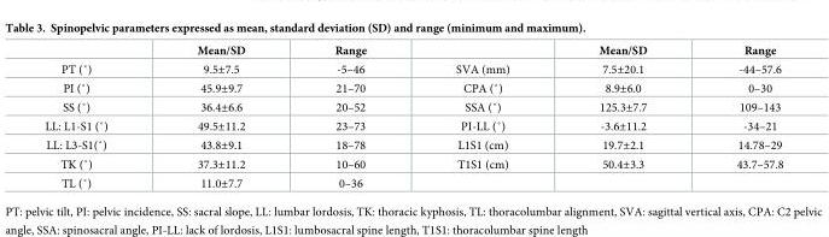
<table><thead><tr><td></td><td>Mean/SD</td><td>Range</td><td></td><td>Mean/SD</td><td>Range</td></tr></thead><tbody><tr><td>PT (˚)</td><td>9.5±7.5</td><td>-5–46</td><td>SVA (mm)</td><td>7.5±20.1</td><td>-44–57.6</td></tr><tr><td>PI (˚)</td><td>45.9±9.7</td><td>21–70</td><td>CPA (˚)</td><td>8.9±6.0</td><td>0–30</td></tr><tr><td>SS (˚)</td><td>36.4±6.6</td><td>20–52</td><td>SSA (˚)</td><td>125.3±7.7</td><td>109–143</td></tr><tr><td>LL: L1-S1 (˚)</td><td>49.5±11.2</td><td>23–73</td><td>PI-LL (˚)</td><td>-3.6±11.2</td><td>-34–21</td></tr><tr><td>LL: L3-S1(˚)</td><td>43.8±9.1</td><td>18–78</td><td>L1S1 (cm)</td><td>19.7±2.1</td><td>14.78–29</td></tr><tr><td>TK (˚)</td><td>37.3±11.2</td><td>10–60</td><td>T1S1 (cm)</td><td>50.4±3.3</td><td>43.7–57.8</td></tr><tr><td>TL (˚)</td><td>11.0±7.7</td><td>0–36</td><td></td><td></td><td></td></tr></tbody></table>